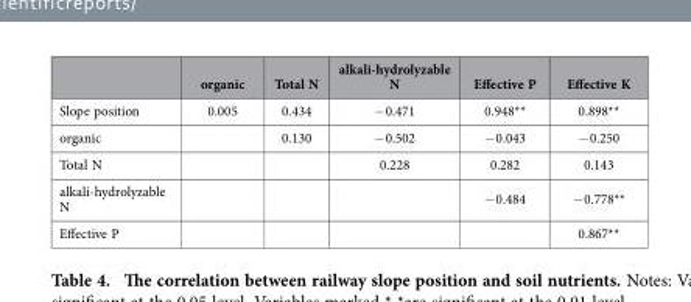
<table><thead><tr><td></td><td>organic</td><td>Total N</td><td>alkali-hydrolyzable N</td><td>Effective P</td><td>Effective K</td></tr></thead><tbody><tr><td>Slope position</td><td>0.005</td><td>0.434</td><td>− 0.471</td><td>0.948**</td><td>0.898**</td></tr><tr><td>organic</td><td></td><td>0.130</td><td>− 0.502</td><td>− 0.043</td><td>− 0.250</td></tr><tr><td>Total N</td><td></td><td></td><td>0.228</td><td>0.282</td><td>0.143</td></tr><tr><td>alkali-hydrolyzable N</td><td></td><td></td><td></td><td>− 0.484</td><td>− 0.778**</td></tr><tr><td>Effective P</td><td></td><td></td><td></td><td></td><td>0.867**</td></tr></tbody></table>